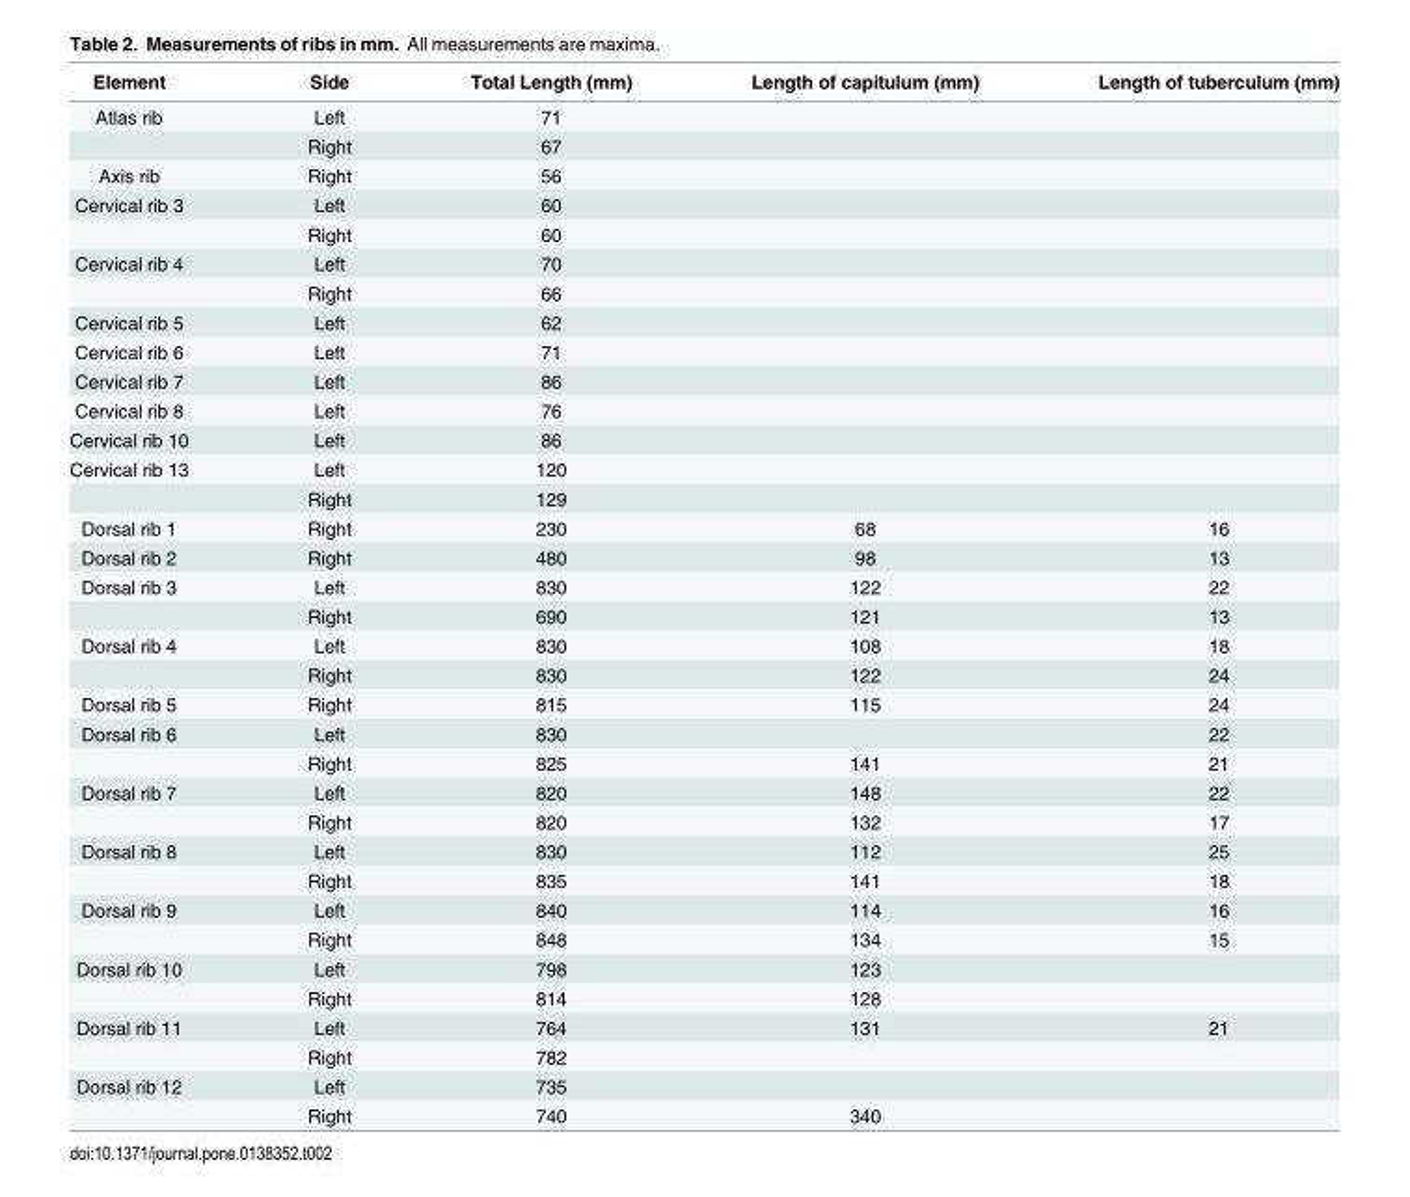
<table><thead><tr><td>Element</td><td>Side</td><td>Total Length (mm)</td><td>Length of capitulum (mm)</td><td>Length of tuberculum (mm)</td></tr></thead><tbody><tr><td rowspan="2">Atlas rib</td><td>Left</td><td>71</td><td></td><td></td></tr><tr><td>Right</td><td>67</td><td></td><td></td></tr><tr><td>Axis rib</td><td>Right</td><td>56</td><td></td><td></td></tr><tr><td rowspan="2">Cervical rib 3</td><td>Left</td><td>60</td><td></td><td></td></tr><tr><td>Right</td><td>60</td><td></td><td></td></tr><tr><td rowspan="2">Cervical rib 4</td><td>Left</td><td>70</td><td></td><td></td></tr><tr><td>Right</td><td>66</td><td></td><td></td></tr><tr><td>Cervical rib 5</td><td>Left</td><td>62</td><td></td><td></td></tr><tr><td>Cervical rib 6</td><td>Left</td><td>71</td><td></td><td></td></tr><tr><td>Cervical rib 7</td><td>Left</td><td>86</td><td></td><td></td></tr><tr><td>Cervical rib 8</td><td>Left</td><td>76</td><td></td><td></td></tr><tr><td>Cervical rib 10</td><td>Left</td><td>86</td><td></td><td></td></tr><tr><td rowspan="2">Cervical rib 13</td><td>Left</td><td>120</td><td></td><td></td></tr><tr><td>Right</td><td>129</td><td></td><td></td></tr><tr><td>Dorsal rib 1</td><td>Right</td><td>230</td><td>68</td><td>16</td></tr><tr><td>Dorsal rib 2</td><td>Right</td><td>480</td><td>98</td><td>13</td></tr><tr><td rowspan="2">Dorsal rib 3</td><td>Left</td><td>830</td><td>122</td><td>22</td></tr><tr><td>Right</td><td>690</td><td>121</td><td>13</td></tr><tr><td rowspan="2">Dorsal rib 4</td><td>Left</td><td>830</td><td>108</td><td>18</td></tr><tr><td>Right</td><td>830</td><td>122</td><td>24</td></tr><tr><td>Dorsal rib 5</td><td>Right</td><td>815</td><td>115</td><td>24</td></tr><tr><td rowspan="2">Dorsal rib 6</td><td>Left</td><td>830</td><td></td><td>22</td></tr><tr><td>Right</td><td>825</td><td>141</td><td>21</td></tr><tr><td rowspan="2">Dorsal rib 7</td><td>Left</td><td>820</td><td>148</td><td>22</td></tr><tr><td>Right</td><td>820</td><td>132</td><td>17</td></tr><tr><td rowspan="2">Dorsal rib 8</td><td>Left</td><td>830</td><td>112</td><td>25</td></tr><tr><td>Right</td><td>835</td><td>141</td><td>18</td></tr><tr><td rowspan="2">Dorsal rib 9</td><td>Left</td><td>840</td><td>114</td><td>16</td></tr><tr><td>Right</td><td>848</td><td>134</td><td>15</td></tr><tr><td rowspan="2">Dorsal rib 10</td><td>Left</td><td>798</td><td>123</td><td></td></tr><tr><td>Right</td><td>814</td><td>128</td><td></td></tr><tr><td rowspan="2">Dorsal rib 11</td><td>Left</td><td>764</td><td>131</td><td>21</td></tr><tr><td>Right</td><td>782</td><td></td><td></td></tr><tr><td rowspan="2">Dorsal rib 12</td><td>Left</td><td>735</td><td></td><td></td></tr><tr><td>Right</td><td>740</td><td>340</td><td></td></tr></tbody></table>